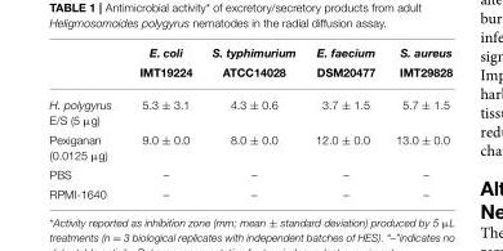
<table><thead><tr><td rowspan="2"></td><td rowspan="2">E. coli IMT19224</td><td rowspan="2">S. typhimurium ATCC14028</td><td rowspan="2">E. faecium DSM20477</td><td rowspan="2">S. aureus IMT29828</td></tr><tr></tr></thead><tbody><tr><td>H. polygyrus E/S (5 µg)</td><td>5.3 ± 3.1</td><td>4.3 ± 0.6</td><td>3.7 ± 1.5</td><td>5.7 ± 1.5</td></tr><tr><td>Pexiganan (0.0125 µg)</td><td>9.0 ± 0.0</td><td>8.0 ± 0.0</td><td>12.0 ± 0.0</td><td>13.0 ± 0.0</td></tr><tr><td>PBS</td><td>–</td><td>–</td><td>–</td><td>–</td></tr><tr><td>RPMI-1640</td><td>–</td><td>–</td><td>–</td><td>–</td></tr></tbody></table>